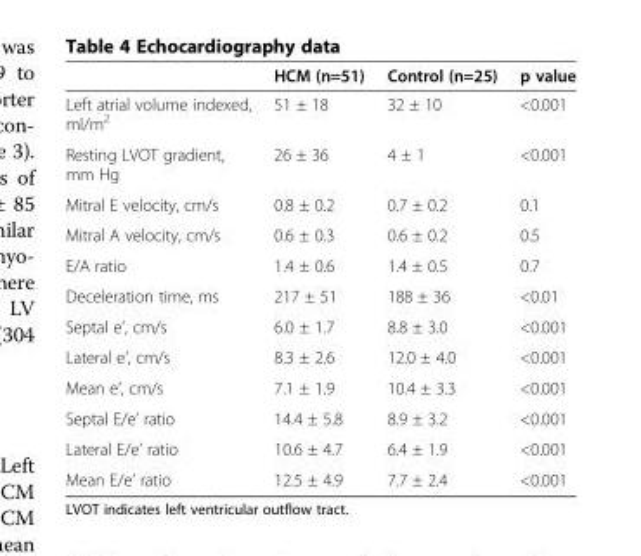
<table><thead><tr><td></td><td>HCM (n=51)</td><td>Control (n=25)</td><td>p value</td></tr></thead><tbody><tr><td>Left atrial volume indexed, ml/m<sup>2</sup></td><td>51 ± 18</td><td>32 ± 10</td><td>&lt;0.001</td></tr><tr><td>Resting LVOT gradient, mm Hg</td><td>26 ± 36</td><td>4 ± 1</td><td>&lt;0.001</td></tr><tr><td>Mitral E velocity, cm/s</td><td>0.8 ± 0.2</td><td>0.7 ± 0.2</td><td>0.1</td></tr><tr><td>Mitral A velocity, cm/s</td><td>0.6 ± 0.3</td><td>0.6 ± 0.2</td><td>0.5</td></tr><tr><td>E/A ratio</td><td>1.4 ± 0.6</td><td>1.4 ± 0.5</td><td>0.7</td></tr><tr><td>Deceleration time, ms</td><td>217 ± 51</td><td>188 ± 36</td><td>&lt;0.01</td></tr><tr><td>Septal e’, cm/s</td><td>6.0 ± 1.7</td><td>8.8 ± 3.0</td><td>&lt;0.001</td></tr><tr><td>Lateral e’, cm/s</td><td>8.3 ± 2.6</td><td>12.0 ± 4.0</td><td>&lt;0.001</td></tr><tr><td>Mean e’, cm/s</td><td>7.1 ± 1.9</td><td>10.4 ± 3.3</td><td>&lt;0.001</td></tr><tr><td>Septal E/e’ ratio</td><td>14.4 ± 5.8</td><td>8.9 ± 3.2</td><td>&lt;0.001</td></tr><tr><td>Lateral E/e’ ratio</td><td>10.6 ± 4.7</td><td>6.4 ± 1.9</td><td>&lt;0.001</td></tr><tr><td>Mean E/e’ ratio</td><td>12.5 ± 4.9</td><td>7.7 ± 2.4</td><td>&lt;0.001</td></tr></tbody></table>